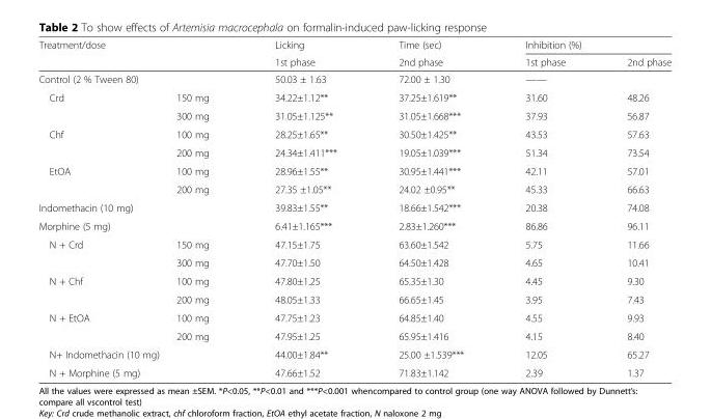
<table><thead><tr><td rowspan="3" colspan="2">Treatment/dose Control (2 % Tween 80)</td><td rowspan="4">Licking 1st phase 50.03 ± 1.63 34.22±1.12**</td><td rowspan="4">Time (sec) 2nd phase 72.00 ± 1.30 37.25±1.619**</td><td colspan="2">Inhibition (%)</td></tr><tr><td rowspan="3">1st phase —— 31.60</td><td rowspan="3">2nd phase 48.26</td></tr><tr></tr><tr><td>Crd</td><td>150 mg</td></tr></thead><tbody><tr><td></td><td>300 mg</td><td>31.05±1.125**</td><td>31.05±1.668***</td><td>37.93</td><td>56.87</td></tr><tr><td rowspan="2">Chf</td><td>100 mg</td><td>28.25±1.65**</td><td>30.50±1.425**</td><td>43.53</td><td>57.63</td></tr><tr><td>200 mg</td><td>24.34±1.411***</td><td>19.05±1.039***</td><td>51.34</td><td>73.54</td></tr><tr><td rowspan="2">EtOA</td><td>100 mg</td><td>28.96±1.55**</td><td>30.95±1.441***</td><td>42.11</td><td>57.01</td></tr><tr><td>200 mg</td><td>27.35 ±1.05**</td><td>24.02 ±0.95**</td><td>45.33</td><td>66.63</td></tr><tr><td colspan="2">Indomethacin (10 mg)</td><td>39.83±1.55**</td><td>18.66±1.542***</td><td>20.38</td><td>74.08</td></tr><tr><td>Morphine (5 mg)</td><td></td><td>6.41±1.165***</td><td>2.83±1.260***</td><td>86.86</td><td>96.11</td></tr><tr><td rowspan="2">N + Crd</td><td>150 mg</td><td>47.15±1.75</td><td>63.60±1.542</td><td>5.75</td><td>11.66</td></tr><tr><td>300 mg</td><td>47.70±1.50</td><td>64.50±1.428</td><td>4.65</td><td>10.41</td></tr><tr><td rowspan="2">N + Chf</td><td>100 mg</td><td>47.80±1.25</td><td>65.35±1.30</td><td>4.45</td><td>9.30</td></tr><tr><td>200 mg</td><td>48.05±1.33</td><td>66.65±1.45</td><td>3.95</td><td>7.43</td></tr><tr><td rowspan="2">N + EtOA</td><td>100 mg</td><td>47.75±1.23</td><td>64.85±1.40</td><td>4.55</td><td>9.93</td></tr><tr><td>200 mg</td><td>47.95±1.25</td><td>65.95±1.416</td><td>4.15</td><td>8.40</td></tr><tr><td colspan="2">N+ Indomethacin (10 mg)</td><td>44.00±1.84**</td><td>25.00 ±1.539***</td><td>12.05</td><td>65.27</td></tr><tr><td colspan="2">N + Morphine (5 mg)</td><td>47.66±1.52</td><td>71.83±1.142</td><td>2.39</td><td>1.37</td></tr></tbody></table>